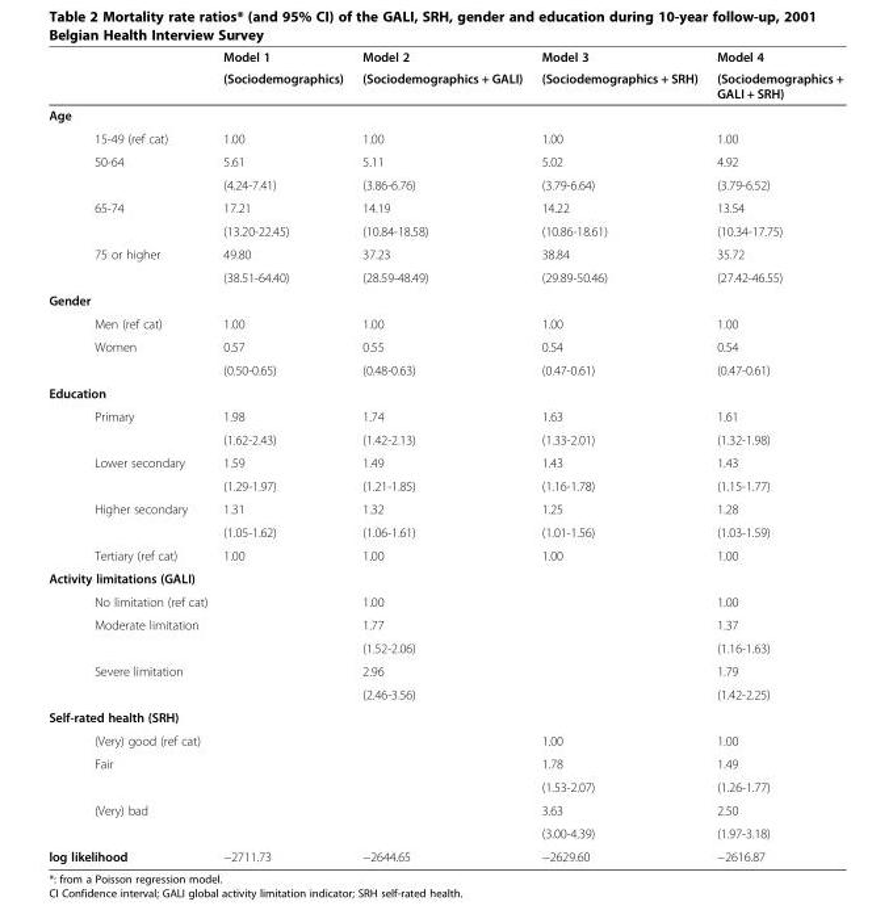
<table><thead><tr><td rowspan="2"></td><td rowspan="2"></td><td rowspan="2">Model 1 (Sociodemographics)</td><td rowspan="2">Model 2 (Sociodemographics + GALI)</td><td rowspan="2">Model 3 (Sociodemographics + SRH)</td><td rowspan="2">Model 4 (Sociodemographics + GALI + SRH)</td></tr><tr></tr></thead><tbody><tr><td colspan="6">Age</td></tr><tr><td></td><td>15-49 (ref cat)</td><td>1.00</td><td>1.00</td><td>1.00</td><td>1.00</td></tr><tr><td></td><td>50-64</td><td>5.61</td><td>5.11</td><td>5.02</td><td>4.92</td></tr><tr><td></td><td></td><td>(4.24-7.41)</td><td>(3.86-6.76)</td><td>(3.79-6.64)</td><td>(3.79-6.52)</td></tr><tr><td></td><td>65-74</td><td>17.21</td><td>14.19</td><td>14.22</td><td>13.54</td></tr><tr><td></td><td></td><td>(13.20-22.45)</td><td>(10.84-18.58)</td><td>(10.86-18.61)</td><td>(10.34-17.75)</td></tr><tr><td></td><td>75 or higher</td><td>49.80</td><td>37.23</td><td>38.84</td><td>35.72</td></tr><tr><td></td><td></td><td>(38.51-64.40)</td><td>(28.59-48.49)</td><td>(29.89-50.46)</td><td>(27.42-46.55)</td></tr><tr><td colspan="6">Gender</td></tr><tr><td></td><td>Men (ref cat)</td><td>1.00</td><td>1.00</td><td>1.00</td><td>1.00</td></tr><tr><td></td><td>Women</td><td>0.57</td><td>0.55</td><td>0.54</td><td>0.54</td></tr><tr><td></td><td></td><td>(0.50-0.65)</td><td>(0.48-0.63)</td><td>(0.47-0.61)</td><td>(0.47-0.61)</td></tr><tr><td colspan="6">Education</td></tr><tr><td></td><td>Primary</td><td>1.98</td><td>1.74</td><td>1.63</td><td>1.61</td></tr><tr><td></td><td></td><td>(1.62-2.43)</td><td>(1.42-2.13)</td><td>(1.33-2.01)</td><td>(1.32-1.98)</td></tr><tr><td></td><td>Lower secondary</td><td>1.59</td><td>1.49</td><td>1.43</td><td>1.43</td></tr><tr><td></td><td></td><td>(1.29-1.97)</td><td>(1.21-1.85)</td><td>(1.16-1.78)</td><td>(1.15-1.77)</td></tr><tr><td></td><td>Higher secondary</td><td>1.31</td><td>1.32</td><td>1.25</td><td>1.28</td></tr><tr><td></td><td></td><td>(1.05-1.62)</td><td>(1.06-1.61)</td><td>(1.01-1.56)</td><td>(1.03-1.59)</td></tr><tr><td></td><td>Tertiary (ref cat)</td><td>1.00</td><td>1.00</td><td>1.00</td><td>1.00</td></tr><tr><td colspan="6">Activity limitations (GALI)</td></tr><tr><td></td><td colspan="2">No limitation (ref cat)</td><td>1.00</td><td></td><td>1.00</td></tr><tr><td></td><td>Moderate limitation</td><td></td><td>1.77</td><td></td><td>1.37</td></tr><tr><td></td><td></td><td></td><td>(1.52-2.06)</td><td></td><td>(1.16-1.63)</td></tr><tr><td></td><td>Severe limitation</td><td></td><td>2.96</td><td></td><td>1.79</td></tr><tr><td></td><td></td><td></td><td>(2.46-3.56)</td><td></td><td>(1.42-2.25)</td></tr><tr><td colspan="6">Self-rated health (SRH)</td></tr><tr><td></td><td>(Very) good (ref cat)</td><td></td><td></td><td>1.00</td><td>1.00</td></tr><tr><td></td><td>Fair</td><td></td><td></td><td>1.78</td><td>1.49</td></tr><tr><td></td><td></td><td></td><td></td><td>(1.53-2.07)</td><td>(1.26-1.77)</td></tr><tr><td></td><td>(Very) bad</td><td></td><td></td><td>3.63</td><td>2.50</td></tr><tr><td></td><td></td><td></td><td></td><td>(3.00-4.39)</td><td>(1.97-3.18)</td></tr><tr><td colspan="2">log likelihood</td><td>−2711.73</td><td>−2644.65</td><td>−2629.60</td><td>−2616.87</td></tr></tbody></table>